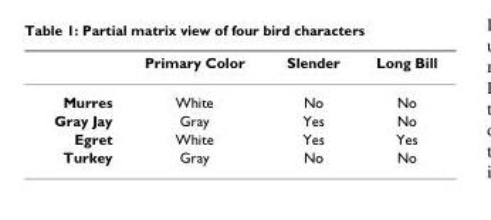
<table><thead><tr><td></td><td>Primary Color</td><td>Slender</td><td>Long Bill</td></tr></thead><tbody><tr><td>Murres</td><td>White</td><td>No</td><td>No</td></tr><tr><td>Gray Jay</td><td>Gray</td><td>Yes</td><td>No</td></tr><tr><td>Egret</td><td>White</td><td>Yes</td><td>Yes</td></tr><tr><td>Turkey</td><td>Gray</td><td>No</td><td>No</td></tr></tbody></table>